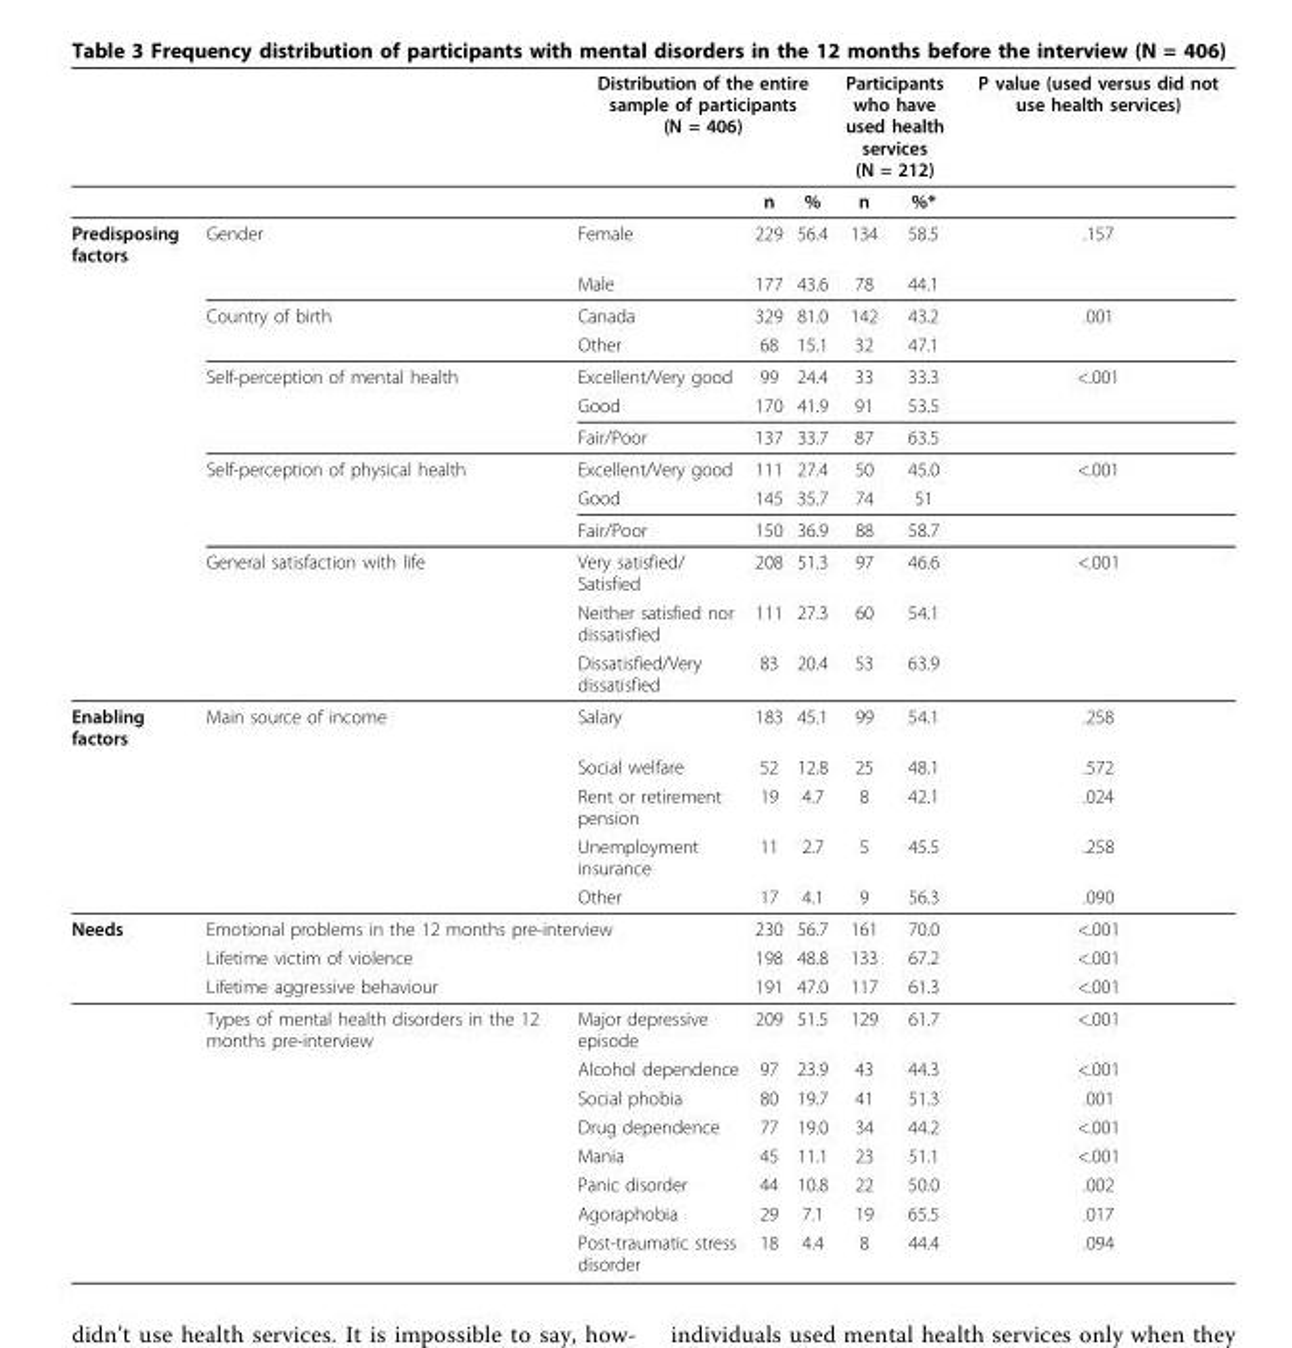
<table><thead><tr><td rowspan="2"></td><td rowspan="2"></td><td colspan="3">Distribution of the entire sample of participants (N = 406)</td><td colspan="2">Participants who have used health services (N = 212)</td><td rowspan="2">P value (used versus did not use health services)</td></tr><tr><td></td><td>n</td><td>%</td><td>n</td><td>%*</td></tr></thead><tbody><tr><td rowspan="13">Predisposing factors</td><td>Gender</td><td>Female</td><td>229</td><td>56.4</td><td>134</td><td>58.5</td><td>.157</td></tr><tr><td></td><td>Male</td><td>177</td><td>43.6</td><td>78</td><td>44.1</td><td></td></tr><tr><td>Country of birth</td><td>Canada</td><td>329</td><td>81.0</td><td>142</td><td>43.2</td><td>.001</td></tr><tr><td></td><td>Other</td><td>68</td><td>15.1</td><td>32</td><td>47.1</td><td></td></tr><tr><td>Self-perception of mental health</td><td>Excellent/Very good</td><td>99</td><td>24.4</td><td>33</td><td>33.3</td><td>&lt;.001</td></tr><tr><td></td><td>Good</td><td>170</td><td>41.9</td><td>91</td><td>53.5</td><td></td></tr><tr><td></td><td>Fair/Poor</td><td>137</td><td>33.7</td><td>87</td><td>63.5</td><td></td></tr><tr><td>Self-perception of physical health</td><td>Excellent/Very good</td><td>111</td><td>27.4</td><td>50</td><td>45.0</td><td>&lt;.001</td></tr><tr><td></td><td>Good</td><td>145</td><td>35.7</td><td>74</td><td>51</td><td></td></tr><tr><td></td><td>Fair/Poor</td><td>150</td><td>36.9</td><td>88</td><td>58.7</td><td></td></tr><tr><td>General satisfaction with life</td><td>Very satisfied/ Satisfied</td><td>208</td><td>51.3</td><td>97</td><td>46.6</td><td>&lt;.001</td></tr><tr><td></td><td>Neither satisfied nor dissatisfied</td><td>111</td><td>27.3</td><td>60</td><td>54.1</td><td></td></tr><tr><td></td><td>Dissatisfied/Very dissatisfied</td><td>83</td><td>20.4</td><td>53</td><td>63.9</td><td></td></tr><tr><td rowspan="5">Enabling factors</td><td>Main source of income</td><td>Salary</td><td>183</td><td>45.1</td><td>99</td><td>54.1</td><td>.258</td></tr><tr><td></td><td>Social welfare</td><td>52</td><td>12.8</td><td>25</td><td>48.1</td><td>.572</td></tr><tr><td></td><td>Rent or retirement pension</td><td>19</td><td>4.7</td><td>8</td><td>42.1</td><td>.024</td></tr><tr><td></td><td>Unemployment insurance</td><td>11</td><td>2.7</td><td>5</td><td>45.5</td><td>.258</td></tr><tr><td></td><td>Other</td><td>17</td><td>4.1</td><td>9</td><td>56.3</td><td>.090</td></tr><tr><td rowspan="11">Needs</td><td colspan="2">Emotional problems in the 12 months pre-interview</td><td>230</td><td>56.7</td><td>161</td><td>70.0</td><td>&lt;.001</td></tr><tr><td colspan="2">Lifetime victim of violence</td><td>198</td><td>48.8</td><td>133</td><td>67.2</td><td>&lt;.001</td></tr><tr><td colspan="2">Lifetime aggressive behaviour</td><td>191</td><td>47.0</td><td>117</td><td>61.3</td><td>&lt;.001</td></tr><tr><td>Types of mental health disorders in the 12 months pre-interview</td><td>Major depressive episode</td><td>209</td><td>51.5</td><td>129</td><td>61.7</td><td>&lt;.001</td></tr><tr><td></td><td>Alcohol dependence</td><td>97</td><td>23.9</td><td>43</td><td>44.3</td><td>&lt;.001</td></tr><tr><td></td><td>Social phobia</td><td>80</td><td>19.7</td><td>41</td><td>51.3</td><td>.001</td></tr><tr><td></td><td>Drug dependence</td><td>77</td><td>19.0</td><td>34</td><td>44.2</td><td>&lt;.001</td></tr><tr><td></td><td>Mania</td><td>45</td><td>11.1</td><td>23</td><td>51.1</td><td>&lt;.001</td></tr><tr><td></td><td>Panic disorder</td><td>44</td><td>10.8</td><td>22</td><td>50.0</td><td>.002</td></tr><tr><td></td><td>Agoraphobia</td><td>29</td><td>7.1</td><td>19</td><td>65.5</td><td>.017</td></tr><tr><td></td><td>Post-traumatic stress disorder</td><td>18</td><td>4.4</td><td>8</td><td>44.4</td><td>.094</td></tr></tbody></table>